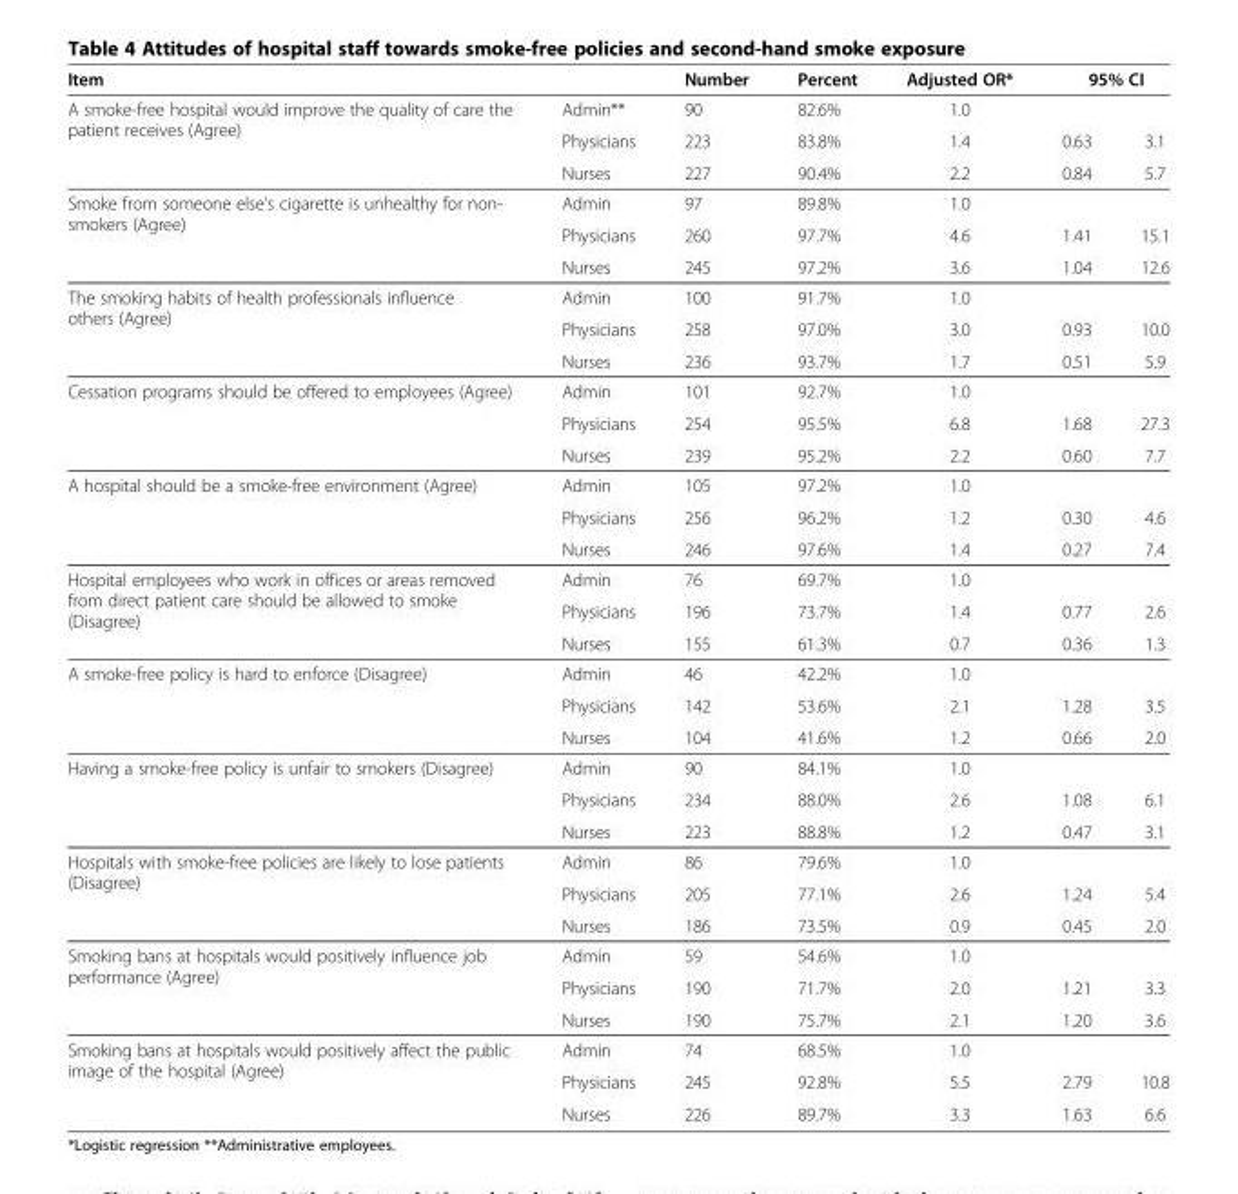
<table><thead><tr><td rowspan="3">Item A smoke-free hospital would improve the quality of care the patient receives (Agree)</td><td rowspan="3">Admin** Physicians</td><td rowspan="3">Number 90 223</td><td rowspan="3">Percent 82.6% 83.8%</td><td rowspan="3">Adjusted OR* 1.0 1.4</td><td rowspan="2" colspan="2">95% CI</td></tr><tr></tr><tr><td>0.63</td><td>3.1</td></tr></thead><tbody><tr><td></td><td>Nurses</td><td>227</td><td>90.4%</td><td>2.2</td><td>0.84</td><td>5.7</td></tr><tr><td rowspan="3">Smoke from someone else&#x27;s cigarette is unhealthy for non- smokers (Agree)</td><td>Admin</td><td>97</td><td>89.8%</td><td>1.0</td><td colspan="2"></td></tr><tr><td>Physicians</td><td>260</td><td>97.7%</td><td>4.6</td><td>1.41</td><td>15.1</td></tr><tr><td>Nurses</td><td>245</td><td>97.2%</td><td>3.6</td><td>1.04</td><td>12.6</td></tr><tr><td rowspan="3">The smoking habits of health professionals influence others (Agree)</td><td>Admin</td><td>100</td><td>91.7%</td><td>1.0</td><td colspan="2"></td></tr><tr><td>Physicians</td><td>258</td><td>97.0%</td><td>3.0</td><td>0.93</td><td>10.0</td></tr><tr><td>Nurses</td><td>236</td><td>93.7%</td><td>1.7</td><td>0.51</td><td>5.9</td></tr><tr><td rowspan="3">Cessation programs should be offered to employees (Agree)</td><td>Admin</td><td>101</td><td>92.7%</td><td>1.0</td><td colspan="2"></td></tr><tr><td>Physicians</td><td>254</td><td>95.5%</td><td>6.8</td><td>1.68</td><td>27.3</td></tr><tr><td>Nurses</td><td>239</td><td>95.2%</td><td>2.2</td><td>0.60</td><td>7.7</td></tr><tr><td rowspan="3">A hospital should be a smoke-free environment (Agree)</td><td>Admin</td><td>105</td><td>97.2%</td><td>1.0</td><td colspan="2"></td></tr><tr><td>Physicians</td><td>256</td><td>96.2%</td><td>1.2</td><td>0.30</td><td>4.6</td></tr><tr><td>Nurses</td><td>246</td><td>97.6%</td><td>1.4</td><td>0.27</td><td>7.4</td></tr><tr><td rowspan="3">Hospital employees who work in offices or areas removed from direct patient care should be allowed to smoke (Disagree)</td><td>Admin</td><td>76</td><td>69.7%</td><td>1.0</td><td colspan="2"></td></tr><tr><td>Physicians</td><td>196</td><td>73.7%</td><td>1.4</td><td>0.77</td><td>2.6</td></tr><tr><td>Nurses</td><td>155</td><td>61.3%</td><td>0.7</td><td>0.36</td><td>1.3</td></tr><tr><td rowspan="3">A smoke-free policy is hard to enforce (Disagree)</td><td>Admin</td><td>46</td><td>42.2%</td><td>1.0</td><td colspan="2"></td></tr><tr><td>Physicians</td><td>142</td><td>53.6%</td><td>2.1</td><td>1.28</td><td>3.5</td></tr><tr><td>Nurses</td><td>104</td><td>41.6%</td><td>1.2</td><td>0.66</td><td>2.0</td></tr><tr><td rowspan="3">Having a smoke-free policy is unfair to smokers (Disagree)</td><td>Admin</td><td>90</td><td>84.1%</td><td>1.0</td><td colspan="2"></td></tr><tr><td>Physicians</td><td>234</td><td>88.0%</td><td>2.6</td><td>1.08</td><td>6.1</td></tr><tr><td>Nurses</td><td>223</td><td>88.8%</td><td>1.2</td><td>0.47</td><td>3.1</td></tr><tr><td rowspan="3">Hospitals with smoke-free policies are likely to lose patients (Disagree)</td><td>Admin</td><td>86</td><td>79.6%</td><td>1.0</td><td colspan="2"></td></tr><tr><td>Physicians</td><td>205</td><td>77.1%</td><td>2.6</td><td>1.24</td><td>5.4</td></tr><tr><td>Nurses</td><td>186</td><td>73.5%</td><td>0.9</td><td>0.45</td><td>2.0</td></tr><tr><td rowspan="3">Smoking bans at hospitals would positively influence job performance (Agree)</td><td>Admin</td><td>59</td><td>54.6%</td><td>1.0</td><td colspan="2"></td></tr><tr><td>Physicians</td><td>190</td><td>71.7%</td><td>2.0</td><td>1.21</td><td>3.3</td></tr><tr><td>Nurses</td><td>190</td><td>75.7%</td><td>2.1</td><td>1.20</td><td>3.6</td></tr><tr><td rowspan="3">Smoking bans at hospitals would positively affect the public image of the hospital (Agree)</td><td>Admin</td><td>74</td><td>68.5%</td><td>1.0</td><td colspan="2"></td></tr><tr><td>Physicians</td><td>245</td><td>92.8%</td><td>5.5</td><td>2.79</td><td>10.8</td></tr><tr><td>Nurses</td><td>226</td><td>89.7%</td><td>3.3</td><td>1.63</td><td>6.6</td></tr></tbody></table>